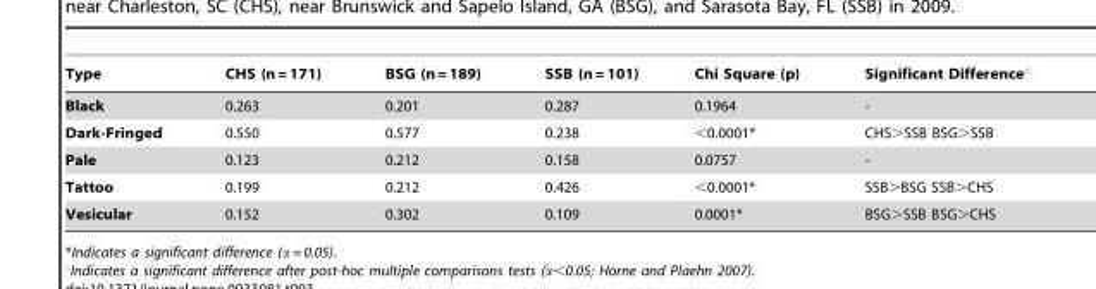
<table><thead><tr><td>Type</td><td>CHS (n = 171)</td><td>BSG (n = 189)</td><td>SSB (n = 101)</td><td>Chi Square (p)</td><td>Significant Difference‘</td></tr></thead><tbody><tr><td>Black</td><td>0.263</td><td>0.201</td><td>0.287</td><td>0.1964</td><td>-</td></tr><tr><td>Dark-Fringed</td><td>0.550</td><td>0.577</td><td>0.238</td><td>&lt;0.0001*</td><td>CHS&gt;SSB BSG&gt;SSB</td></tr><tr><td>Pale</td><td>0.123</td><td>0.212</td><td>0.158</td><td>0.0757</td><td>-</td></tr><tr><td>Tattoo</td><td>0.199</td><td>0.212</td><td>0.426</td><td>&lt;0.0001*</td><td>SSB&gt;BSG SSB&gt;CHS</td></tr><tr><td>Vesicular</td><td>0.152</td><td>0.302</td><td>0.109</td><td>0.0001*</td><td>BSG&gt;SSB BSG&gt;CHS</td></tr></tbody></table>